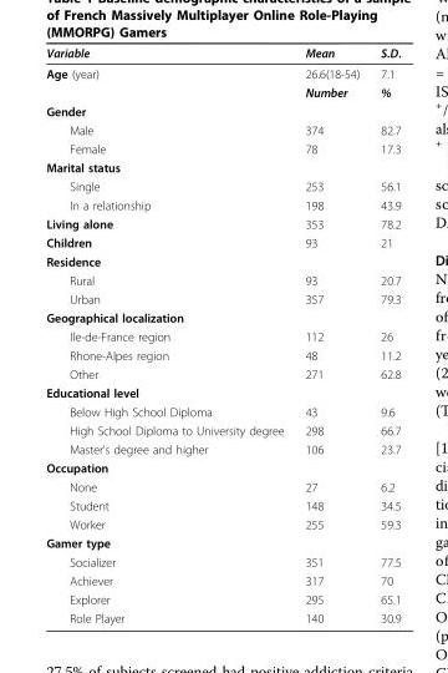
<table><thead><tr><td>Variable</td><td>Mean</td><td>S.D.</td></tr></thead><tbody><tr><td rowspan="2">Age (year)</td><td>26.6(18-54)</td><td>7.1</td></tr><tr><td>Number</td><td>%</td></tr><tr><td colspan="3">Gender</td></tr><tr><td>Male</td><td>374</td><td>82.7</td></tr><tr><td>Female</td><td>78</td><td>17.3</td></tr><tr><td colspan="3">Marital status</td></tr><tr><td>Single</td><td>253</td><td>56.1</td></tr><tr><td>In a relationship</td><td>198</td><td>43.9</td></tr><tr><td>Living alone</td><td>353</td><td>78.2</td></tr><tr><td>Children</td><td>93</td><td>21</td></tr><tr><td colspan="3">Residence</td></tr><tr><td>Rural</td><td>93</td><td>20.7</td></tr><tr><td>Urban</td><td>357</td><td>79.3</td></tr><tr><td colspan="3">Geographical localization</td></tr><tr><td>Ile-de-France region</td><td>112</td><td>26</td></tr><tr><td>Rhone-Alpes region</td><td>48</td><td>11.2</td></tr><tr><td>Other</td><td>271</td><td>62.8</td></tr><tr><td colspan="3">Educational level</td></tr><tr><td>Below High School Diploma</td><td>43</td><td>9.6</td></tr><tr><td>High School Diploma to University degree</td><td>298</td><td>66.7</td></tr><tr><td>Master’s degree and higher</td><td>106</td><td>23.7</td></tr><tr><td colspan="3">Occupation</td></tr><tr><td>None</td><td>27</td><td>6.2</td></tr><tr><td>Student</td><td>148</td><td>34.5</td></tr><tr><td>Worker</td><td>255</td><td>59.3</td></tr><tr><td colspan="3">Gamer type</td></tr><tr><td>Socializer</td><td>351</td><td>77.5</td></tr><tr><td>Achiever</td><td>317</td><td>70</td></tr><tr><td>Explorer</td><td>295</td><td>65.1</td></tr><tr><td>Role Player</td><td>140</td><td>30.9</td></tr></tbody></table>